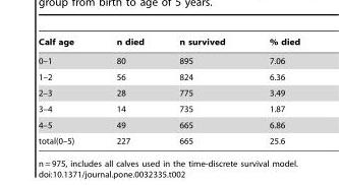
<table><thead><tr><td>Calf age</td><td>n died</td><td>n survived</td><td>% died</td></tr></thead><tbody><tr><td>0–1</td><td>80</td><td>895</td><td>7.06</td></tr><tr><td>1–2</td><td>56</td><td>824</td><td>6.36</td></tr><tr><td>2–3</td><td>28</td><td>775</td><td>3.49</td></tr><tr><td>3–4</td><td>14</td><td>735</td><td>1.87</td></tr><tr><td>4–5</td><td>49</td><td>665</td><td>6.86</td></tr><tr><td>total(0–5)</td><td>227</td><td>665</td><td>25.6</td></tr></tbody></table>